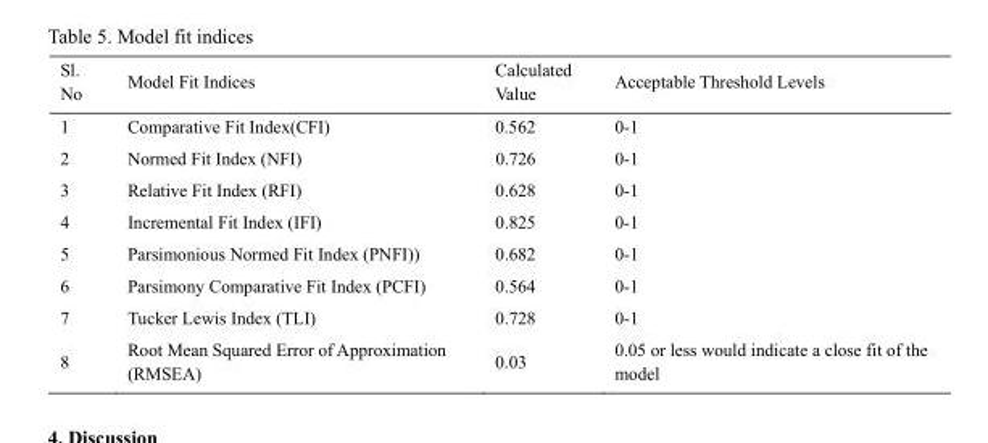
<table><thead><tr><td>Sl. No</td><td>Model Fit Indices</td><td>Calculated Value</td><td>Acceptable Threshold Levels</td></tr></thead><tbody><tr><td>1</td><td>Comparative Fit Index(CFI)</td><td>0.562</td><td>0-1</td></tr><tr><td>2</td><td>Normed Fit Index (NFI)</td><td>0.726</td><td>0-1</td></tr><tr><td>3</td><td>Relative Fit Index (RFI)</td><td>0.628</td><td>0-1</td></tr><tr><td>4</td><td>Incremental Fit Index (IFI)</td><td>0.825</td><td>0-1</td></tr><tr><td>5</td><td>Parsimonious Normed Fit Index (PNFI))</td><td>0.682</td><td>0-1</td></tr><tr><td>6</td><td>Parsimony Comparative Fit Index (PCFI)</td><td>0.564</td><td>0-1</td></tr><tr><td>7</td><td>Tucker Lewis Index (TLI)</td><td>0.728</td><td>0-1</td></tr><tr><td>8</td><td>Root Mean Squared Error of Approximation (RMSEA)</td><td>0.03</td><td>0.05 or less would indicate a close fit of the model</td></tr></tbody></table>